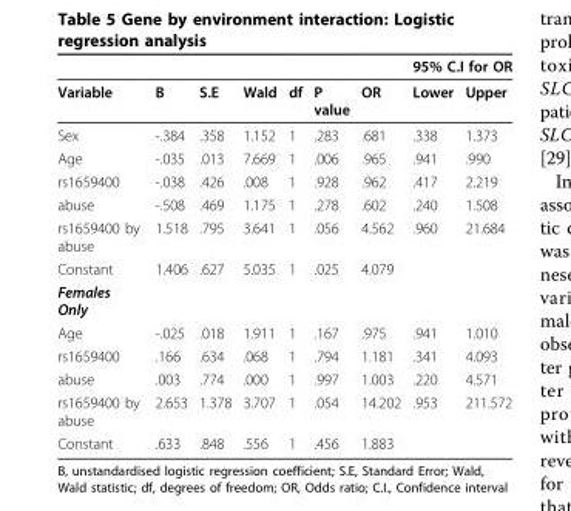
<table><thead><tr><td rowspan="2">Variable</td><td rowspan="2">B</td><td rowspan="2">S.E</td><td rowspan="2">Wald</td><td rowspan="2">df</td><td rowspan="2">P value</td><td rowspan="2">OR</td><td colspan="2">95% C.I for OR</td></tr><tr><td>Lower</td><td>Upper</td></tr></thead><tbody><tr><td>Sex</td><td>-.384</td><td>.358</td><td>1.152</td><td>1</td><td>.283</td><td>.681</td><td>.338</td><td>1.373</td></tr><tr><td>Age</td><td>-.035</td><td>.013</td><td>7.669</td><td>1</td><td>.006</td><td>.965</td><td>.941</td><td>.990</td></tr><tr><td>rs1659400</td><td>-.038</td><td>.426</td><td>.008</td><td>1</td><td>.928</td><td>.962</td><td>.417</td><td>2.219</td></tr><tr><td>abuse</td><td>-.508</td><td>.469</td><td>1.175</td><td>1</td><td>.278</td><td>.602</td><td>.240</td><td>1.508</td></tr><tr><td>rs1659400 by abuse</td><td>1.518</td><td>.795</td><td>3.641</td><td>1</td><td>.056</td><td>4.562</td><td>.960</td><td>21.684</td></tr><tr><td>Constant</td><td>1.406</td><td>.627</td><td>5.035</td><td>1</td><td>.025</td><td>4.079</td><td></td><td></td></tr><tr><td colspan="9">Females Only</td></tr><tr><td>Age</td><td>-.025</td><td>.018</td><td>1.911</td><td>1</td><td>.167</td><td>.975</td><td>.941</td><td>1.010</td></tr><tr><td>rs1659400</td><td>.166</td><td>.634</td><td>.068</td><td>1</td><td>.794</td><td>1.181</td><td>.341</td><td>4.093</td></tr><tr><td>abuse</td><td>.003</td><td>.774</td><td>.000</td><td>1</td><td>.997</td><td>1.003</td><td>.220</td><td>4.571</td></tr><tr><td>rs1659400 by abuse</td><td>2.653</td><td>1.378</td><td>3.707</td><td>1</td><td>.054</td><td>14.202</td><td>.953</td><td>211.572</td></tr><tr><td>Constant</td><td>.633</td><td>.848</td><td>.556</td><td>1</td><td>.456</td><td>1.883</td><td></td><td></td></tr></tbody></table>